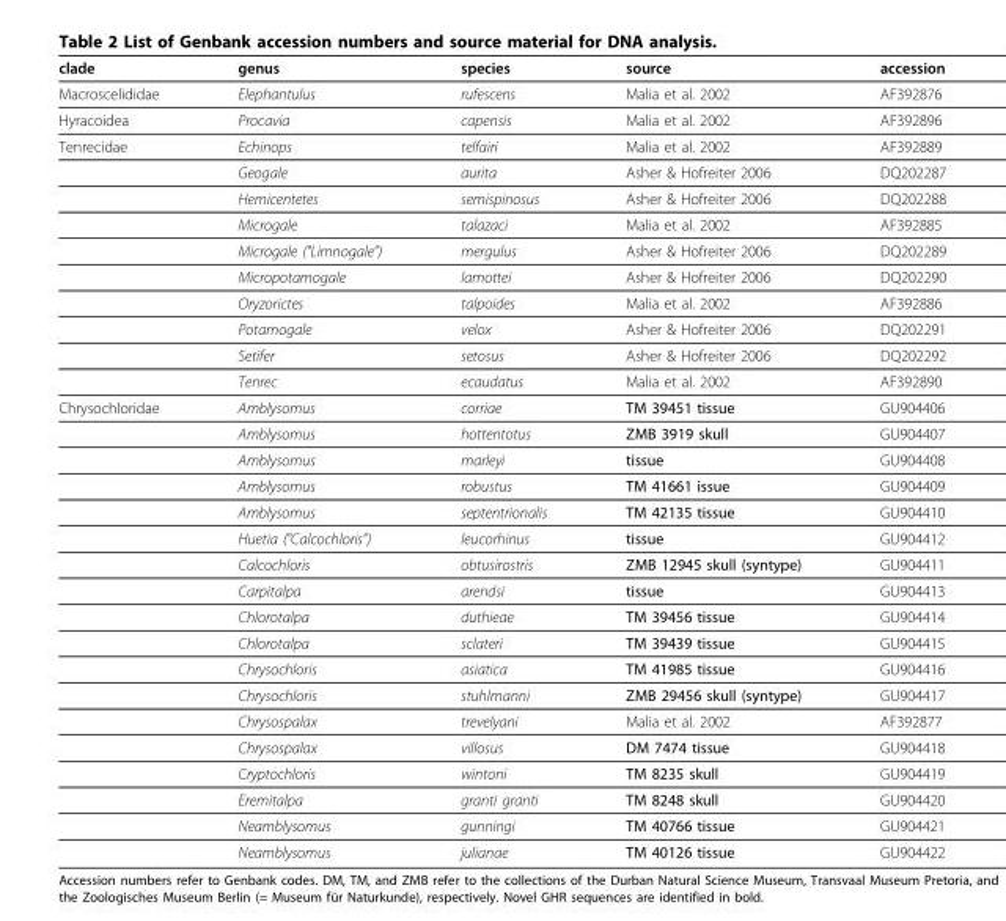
<table><thead><tr><td>clade</td><td>genus</td><td>species</td><td>source</td><td>accession</td></tr></thead><tbody><tr><td>Macroscelididae</td><td>Elephantulus</td><td>rufescens</td><td>Malia et al. 2002</td><td>AF392876</td></tr><tr><td>Hyracoidea</td><td>Procavia</td><td>capensis</td><td>Malia et al. 2002</td><td>AF392896</td></tr><tr><td rowspan="10">Tenrecidae</td><td>Echinops</td><td>telfairi</td><td>Malia et al. 2002</td><td>AF392889</td></tr><tr><td>Geogale</td><td>aurita</td><td>Asher &amp; Hofreiter 2006</td><td>DQ202287</td></tr><tr><td>Hemicentetes</td><td>semispinosus</td><td>Asher &amp; Hofreiter 2006</td><td>DQ202288</td></tr><tr><td>Microgale</td><td>talazaci</td><td>Malia et al. 2002</td><td>AF392885</td></tr><tr><td>Microgale (&quot;Limnogale”)</td><td>mergulus</td><td>Asher &amp; Hofreiter 2006</td><td>DQ202289</td></tr><tr><td>Micropotamogale</td><td>lamottei</td><td>Asher &amp; Hofreiter 2006</td><td>DQ202290</td></tr><tr><td>Oryzorictes</td><td>talpoides</td><td>Malia et al. 2002</td><td>AF392886</td></tr><tr><td>Potamogale</td><td>velox</td><td>Asher &amp; Hofreiter 2006</td><td>DQ202291</td></tr><tr><td>Setifer</td><td>setosus</td><td>Asher &amp; Hofreiter 2006</td><td>DQ202292</td></tr><tr><td>Tenrec</td><td>ecaudatus</td><td>Malia et al. 2002</td><td>AF392890</td></tr><tr><td rowspan="18">Chrysochloridae</td><td>Amblysomus</td><td>corriae</td><td>TM 39451 tissue</td><td>GU904406</td></tr><tr><td>Amblysomus</td><td>hottentotus</td><td>ZMB 3919 skull</td><td>GU904407</td></tr><tr><td>Amblysomus</td><td>marleyi</td><td>tissue</td><td>GU904408</td></tr><tr><td>Amblysomus</td><td>robustus</td><td>TM 41661 issue</td><td>GU904409</td></tr><tr><td>Amblysomus</td><td>septentrionalis</td><td>TM 42135 tissue</td><td>GU904410</td></tr><tr><td>Huetia (&quot;Calcochloris”)</td><td>leucorhinus</td><td>tissue</td><td>GU904412</td></tr><tr><td>Calcochloris</td><td>obtusirostris</td><td>ZMB 12945 skull (syntype)</td><td>GU904411</td></tr><tr><td>Carpitalpa</td><td>arendsi</td><td>tissue</td><td>GU904413</td></tr><tr><td>Chlorotalpa</td><td>duthieae</td><td>TM 39456 tissue</td><td>GU904414</td></tr><tr><td>Chlorotalpa</td><td>sclateri</td><td>TM 39439 tissue</td><td>GU904415</td></tr><tr><td>Chrysochloris</td><td>asiatica</td><td>TM 41985 tissue</td><td>GU904416</td></tr><tr><td>Chrysochloris</td><td>stuhlmanni</td><td>ZMB 29456 skull (syntype)</td><td>GU904417</td></tr><tr><td>Chrysospalax</td><td>trevelyani</td><td>Malia et al. 2002</td><td>AF392877</td></tr><tr><td>Chrysospalax</td><td>villosus</td><td>DM 7474 tissue</td><td>GU904418</td></tr><tr><td>Cryptochloris</td><td>wintoni</td><td>TM 8235 skull</td><td>GU904419</td></tr><tr><td>Eremitalpa</td><td>granti granti</td><td>TM 8248 skull</td><td>GU904420</td></tr><tr><td>Neamblysomus</td><td>gunningi</td><td>TM 40766 tissue</td><td>GU904421</td></tr><tr><td>Neamblysomus</td><td>julianae</td><td>TM 40126 tissue</td><td>GU904422</td></tr></tbody></table>